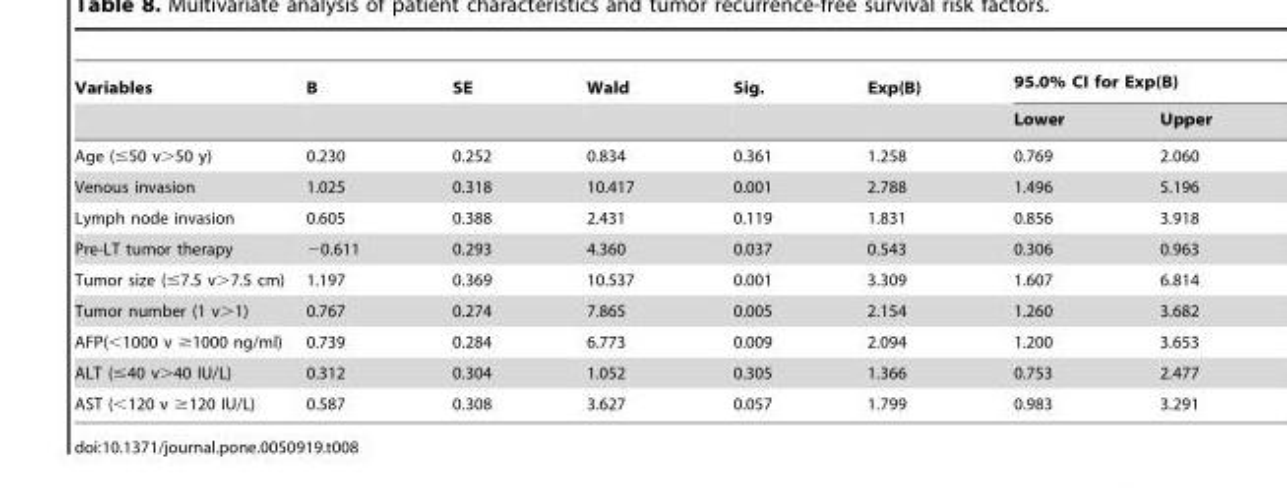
<table><thead><tr><td rowspan="2">Variables</td><td rowspan="2">B</td><td rowspan="2">SE</td><td rowspan="2">Wald</td><td rowspan="2">Sig.</td><td rowspan="2">Exp(B)</td><td colspan="2">95.0% CI for Exp(B)</td></tr><tr><td>Lower</td><td>Upper</td></tr></thead><tbody><tr><td>Age (≤50 v&gt;50 y)</td><td>0.230</td><td>0.252</td><td>0.834</td><td>0.361</td><td>1.258</td><td>0.769</td><td>2.060</td></tr><tr><td>Venous invasion</td><td>1.025</td><td>0.318</td><td>10.417</td><td>0.001</td><td>2.788</td><td>1.496</td><td>5.196</td></tr><tr><td>Lymph node invasion</td><td>0.605</td><td>0.388</td><td>2.431</td><td>0.119</td><td>1.831</td><td>0.856</td><td>3.918</td></tr><tr><td>Pre-LT tumor therapy</td><td>−0.611</td><td>0.293</td><td>4.360</td><td>0.037</td><td>0.543</td><td>0.306</td><td>0.963</td></tr><tr><td>Tumor size (≤7.5 v&gt;7.5 cm)</td><td>1.197</td><td>0.369</td><td>10.537</td><td>0.001</td><td>3.309</td><td>1.607</td><td>6.814</td></tr><tr><td>Tumor number (1 v&gt;1)</td><td>0.767</td><td>0.274</td><td>7.865</td><td>0.005</td><td>2.154</td><td>1.260</td><td>3.682</td></tr><tr><td>AFP(&lt;1000 v ≥1000 ng/ml)</td><td>0.739</td><td>0.284</td><td>6.773</td><td>0.009</td><td>2.094</td><td>1.200</td><td>3.653</td></tr><tr><td>ALT (≤40 v&gt;40 IU/L)</td><td>0.312</td><td>0.304</td><td>1.052</td><td>0.305</td><td>1.366</td><td>0.753</td><td>2.477</td></tr><tr><td>AST (&lt;120 v ≥120 IU/L)</td><td>0.587</td><td>0.308</td><td>3.627</td><td>0.057</td><td>1.799</td><td>0.983</td><td>3.291</td></tr></tbody></table>